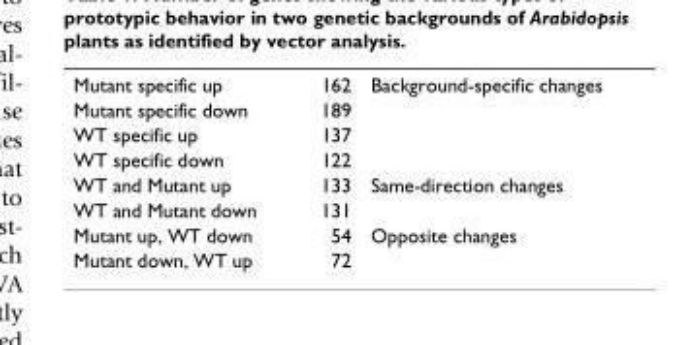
<table><tbody><tr><td>Mutant specific up</td><td>162</td><td>Background-specific changes</td></tr><tr><td>Mutant specific down</td><td>189</td><td></td></tr><tr><td>WT specific up</td><td>137</td><td></td></tr><tr><td>WT specific down</td><td>122</td><td></td></tr><tr><td>WT and Mutant up</td><td>133</td><td>Same-direction changes</td></tr><tr><td>WT and Mutant down</td><td>131</td><td></td></tr><tr><td>Mutant up, WT down</td><td>54</td><td>Opposite changes</td></tr><tr><td>Mutant down, WT up</td><td>72</td><td></td></tr></tbody></table>